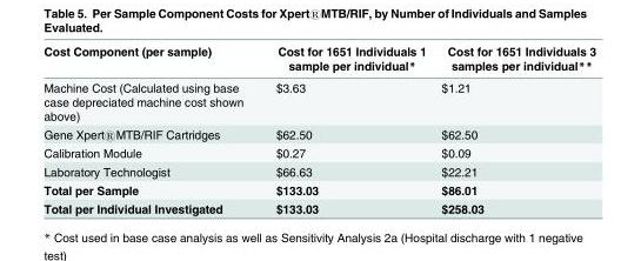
<table><thead><tr><td>Cost Component (per sample)</td><td>Cost for 1651 Individuals 1 sample per individual*</td><td>Cost for 1651 Individuals 3 samples per individual**</td></tr></thead><tbody><tr><td>Machine Cost (Calculated using base case depreciated machine cost shown above)</td><td>$3.63</td><td>$1.21</td></tr><tr><td>Gene Xpert®MTB/RIF Cartridges</td><td>$62.50</td><td>$62.50</td></tr><tr><td>Calibration Module</td><td>$0.27</td><td>$0.09</td></tr><tr><td>Laboratory Technologist</td><td>$66.63</td><td>$22.21</td></tr><tr><td>Total per Sample</td><td>$133.03</td><td>$86.01</td></tr><tr><td>Total per Individual Investigated</td><td>$133.03</td><td>$258.03</td></tr></tbody></table>